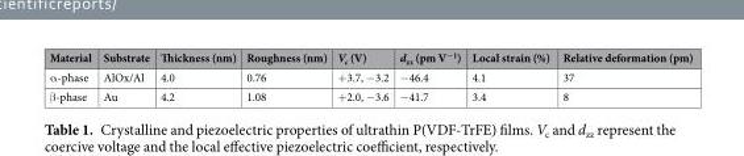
<table><thead><tr><td>Material</td><td>Substrate</td><td>Thickness (nm)</td><td>Roughness (nm)</td><td>V<sub>c</sub> (V)</td><td>d<sub>zz</sub> (pm V<sup>−1</sup>)</td><td>Local strain (%)</td><td>Relative deformation (pm)</td></tr></thead><tbody><tr><td>α-phase</td><td>AlOx/Al</td><td>4.0</td><td>0.76</td><td>+3.7, −3.2</td><td>−46.4</td><td>4.1</td><td>37</td></tr><tr><td>β-phase</td><td>Au</td><td>4.2</td><td>1.08</td><td>+2.0, −3.6</td><td>−41.7</td><td>3.4</td><td>8</td></tr></tbody></table>